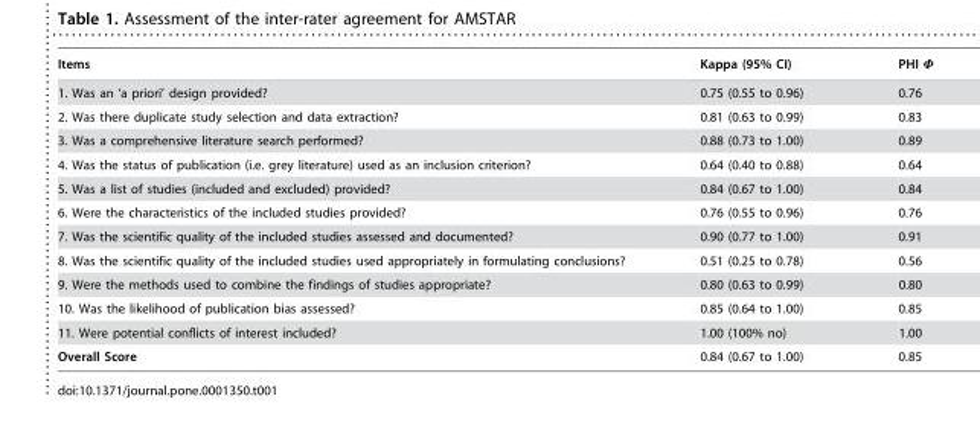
<table><thead><tr><td>Items</td><td>Kappa (95% CI)</td><td>PHI</td></tr></thead><tbody><tr><td>1. Was an ‘a priori’ design provided?</td><td>0.75 (0.55 to 0.96)</td><td>0.76</td></tr><tr><td>2. Was there duplicate study selection and data extraction?</td><td>0.81 (0.63 to 0.99)</td><td>0.83</td></tr><tr><td>3. Was a comprehensive literature search performed?</td><td>0.88 (0.73 to 1.00)</td><td>0.89</td></tr><tr><td>4. Was the status of publication (i.e. grey literature) used as an inclusion criterion?</td><td>0.64 (0.40 to 0.88)</td><td>0.64</td></tr><tr><td>5. Was a list of studies (included and excluded) provided?</td><td>0.84 (0.67 to 1.00)</td><td>0.84</td></tr><tr><td>6. Were the characteristics of the included studies provided?</td><td>0.76 (0.55 to 0.96)</td><td>0.76</td></tr><tr><td>7. Was the scientific quality of the included studies assessed and documented?</td><td>0.90 (0.77 to 1.00)</td><td>0.91</td></tr><tr><td>8. Was the scientific quality of the included studies used appropriately in formulating conclusions?</td><td>0.51 (0.25 to 0.78)</td><td>0.56</td></tr><tr><td>9. Were the methods used to combine the findings of studies appropriate?</td><td>0.80 (0.63 to 0.99)</td><td>0.80</td></tr><tr><td>10. Was the likelihood of publication bias assessed?</td><td>0.85 (0.64 to 1.00)</td><td>0.85</td></tr><tr><td>11. Were potential conflicts of interest included?</td><td>1.00 (100% no)</td><td>1.00</td></tr><tr><td>Overall Score</td><td>0.84 (0.67 to 1.00)</td><td>0.85</td></tr></tbody></table>